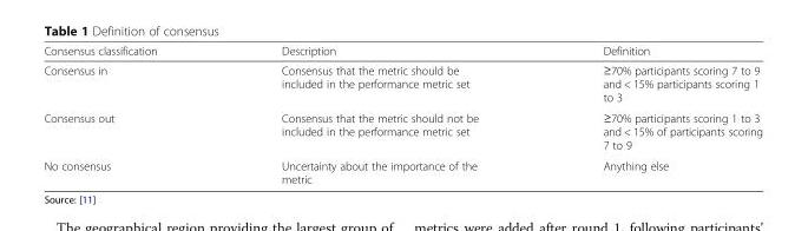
<table><thead><tr><td>Consensus classification</td><td>Description</td><td>Definition</td></tr></thead><tbody><tr><td>Consensus in</td><td>Consensus that the metric should be included in the performance metric set</td><td>≥70% participants scoring 7 to 9 and &lt; 15% participants scoring 1 to 3</td></tr><tr><td>Consensus out</td><td>Consensus that the metric should not be included in the performance metric set</td><td>≥70% participants scoring 1 to 3 and &lt; 15% of participants scoring 7 to 9</td></tr><tr><td>No consensus</td><td>Uncertainty about the importance of the metric</td><td>Anything else</td></tr></tbody></table>